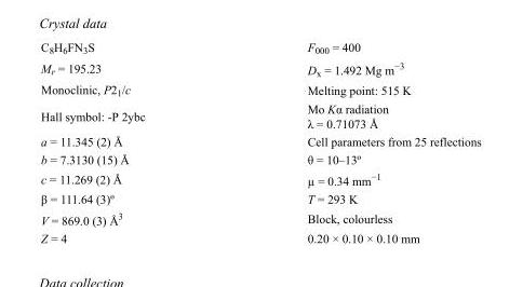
<table><tbody><tr><td>C<sub>8</sub>H<sub>6</sub>FN<sub>3</sub>S</td><td>F000 = 400</td></tr><tr><td>M<sub>r</sub> = 195.23</td><td>D<sub>x</sub> = 1.492 Mg m<sup>−3</sup></td></tr><tr><td>Monoclinic, P2<sub>1</sub>/c</td><td>Melting point: 515 K</td></tr><tr><td>Hall symbol: -P 2ybc</td><td>Mo Kα radiation λ = 0.71073 Å</td></tr><tr><td>a = 11.345 (2) Å</td><td>Cell parameters from 25 reflections</td></tr><tr><td>b = 7.3130 (15) Å</td><td>θ = 10–13º</td></tr><tr><td>c = 11.269 (2) Å</td><td>µ = 0.34 mm<sup>−1</sup></td></tr><tr><td>β = 111.64 (3)º</td><td>T = 293 K</td></tr><tr><td>V = 869.0 (3) Å<sup>3</sup></td><td>Block, colourless</td></tr><tr><td>Z = 4</td><td>0.20 × 0.10 × 0.10 mm</td></tr></tbody></table>